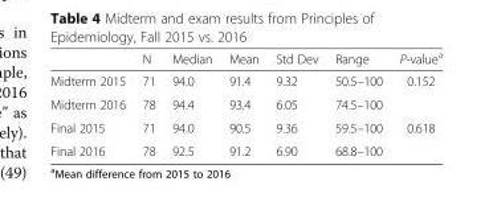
<table><thead><tr><td></td><td>N</td><td>Median</td><td>Mean</td><td>Std Dev</td><td>Range</td><td>P-value<sup>a</sup></td></tr></thead><tbody><tr><td>Midterm 2015</td><td>71</td><td>94.0</td><td>91.4</td><td>9.32</td><td>50.5–100</td><td rowspan="2">0.152</td></tr><tr><td>Midterm 2016</td><td>78</td><td>94.4</td><td>93.4</td><td>6.05</td><td>74.5–100</td></tr><tr><td>Final 2015</td><td>71</td><td>94.0</td><td>90.5</td><td>9.36</td><td>59.5–100</td><td rowspan="2">0.618</td></tr><tr><td>Final 2016</td><td>78</td><td>92.5</td><td>91.2</td><td>6.90</td><td>68.8–100</td></tr></tbody></table>